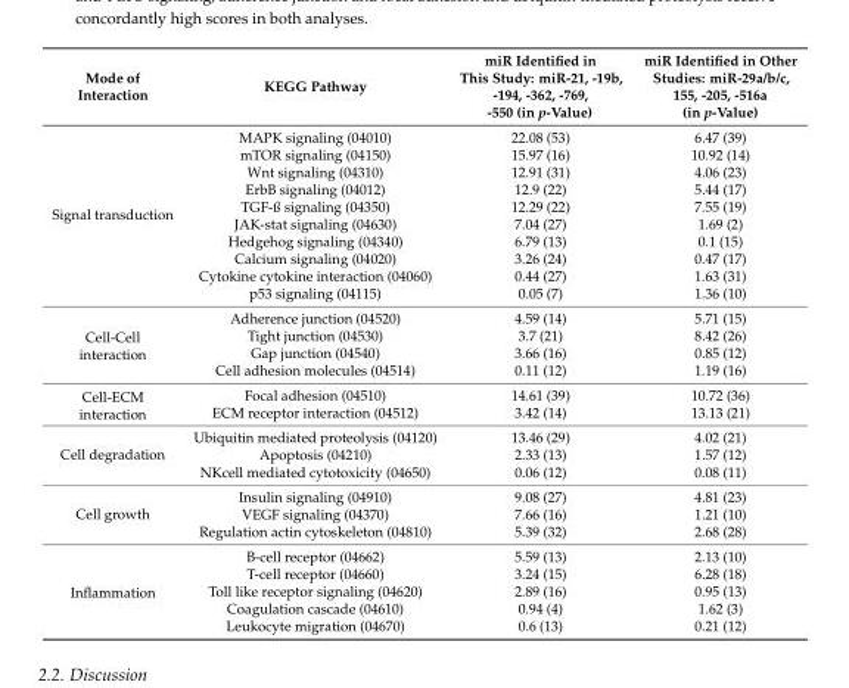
<table><thead><tr><td>Mode of Interaction</td><td>KEGG Pathway</td><td>miR Identified in This Study: miR-21, -19b, -194, -362, -769, -550 (in p-Value)</td><td>miR Identified in Other Studies: miR-29a/b/c, 155, -205, -516a (in p-Value)</td></tr></thead><tbody><tr><td rowspan="10">Signal transduction</td><td>MAPK signaling (04010)</td><td>22.08 (53)</td><td>6.47 (39)</td></tr><tr><td>mTOR signaling (04150)</td><td>15.97 (16)</td><td>10.92 (14)</td></tr><tr><td>Wnt signaling (04310)</td><td>12.91 (31)</td><td>4.06 (23)</td></tr><tr><td>ErbB signaling (04012)</td><td>12.9 (22)</td><td>5.44 (17)</td></tr><tr><td>TGF-ß signaling (04350)</td><td>12.29 (22)</td><td>7.55 (19)</td></tr><tr><td>JAK-stat signaling (04630)</td><td>7.04 (27)</td><td>1.69 (2)</td></tr><tr><td>Hedgehog signaling (04340)</td><td>6.79 (13)</td><td>0.1 (15)</td></tr><tr><td>Calcium signaling (04020)</td><td>3.26 (24)</td><td>0.47 (17)</td></tr><tr><td>Cytokine cytokine interaction (04060)</td><td>0.44 (27)</td><td>1.63 (31)</td></tr><tr><td>p53 signaling (04115)</td><td>0.05 (7)</td><td>1.36 (10)</td></tr><tr><td rowspan="4">Cell-Cell interaction</td><td>Adherence junction (04520)</td><td>4.59 (14)</td><td>5.71 (15)</td></tr><tr><td>Tight junction (04530)</td><td>3.7 (21)</td><td>8.42 (26)</td></tr><tr><td>Gap junction (04540)</td><td>3.66 (16)</td><td>0.85 (12)</td></tr><tr><td>Cell adhesion molecules (04514)</td><td>0.11 (12)</td><td>1.19 (16)</td></tr><tr><td rowspan="2">Cell-ECM interaction</td><td>Focal adhesion (04510)</td><td>14.61 (39)</td><td>10.72 (36)</td></tr><tr><td>ECM receptor interaction (04512)</td><td>3.42 (14)</td><td>13.13 (21)</td></tr><tr><td rowspan="3">Cell degradation</td><td>Ubiquitin mediated proteolysis (04120)</td><td>13.46 (29)</td><td>4.02 (21)</td></tr><tr><td>Apoptosis (04210)</td><td>2.33 (13)</td><td>1.57 (12)</td></tr><tr><td>NKcell mediated cytotoxicity (04650)</td><td>0.06 (12)</td><td>0.08 (11)</td></tr><tr><td rowspan="3">Cell growth</td><td>Insulin signaling (04910)</td><td>9.08 (27)</td><td>4.81 (23)</td></tr><tr><td>VEGF signaling (04370)</td><td>7.66 (16)</td><td>1.21 (10)</td></tr><tr><td>Regulation actin cytoskeleton (04810)</td><td>5.39 (32)</td><td>2.68 (28)</td></tr><tr><td rowspan="5">Inflammation</td><td>B-cell receptor (04662)</td><td>5.59 (13)</td><td>2.13 (10)</td></tr><tr><td>T-cell receptor (04660)</td><td>3.24 (15)</td><td>6.28 (18)</td></tr><tr><td>Toll like receptor signaling (04620)</td><td>2.89 (16)</td><td>0.95 (13)</td></tr><tr><td>Coagulation cascade (04610)</td><td>0.94 (4)</td><td>1.62 (3)</td></tr><tr><td>Leukocyte migration (04670)</td><td>0.6 (13)</td><td>0.21 (12)</td></tr></tbody></table>